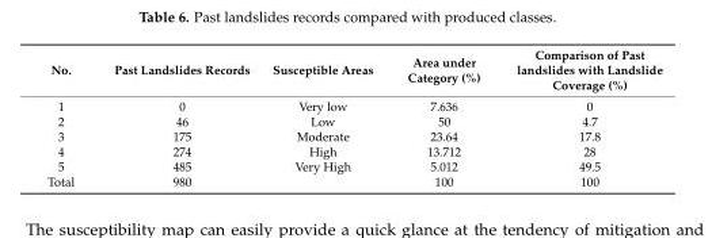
<table><thead><tr><td>No.</td><td>Past Landslides Records</td><td>Susceptible Areas</td><td>Area under Category (%)</td><td>Comparison of Past landslides with Landslide Coverage (%)</td></tr></thead><tbody><tr><td>1</td><td>0</td><td>Very low</td><td>7.636</td><td>0</td></tr><tr><td>2</td><td>46</td><td>Low</td><td>50</td><td>4.7</td></tr><tr><td>3</td><td>175</td><td>Moderate</td><td>23.64</td><td>17.8</td></tr><tr><td>4</td><td>274</td><td>High</td><td>13.712</td><td>28</td></tr><tr><td>5</td><td>485</td><td>Very High</td><td>5.012</td><td>49.5</td></tr><tr><td>Total</td><td>980</td><td></td><td>100</td><td>100</td></tr></tbody></table>